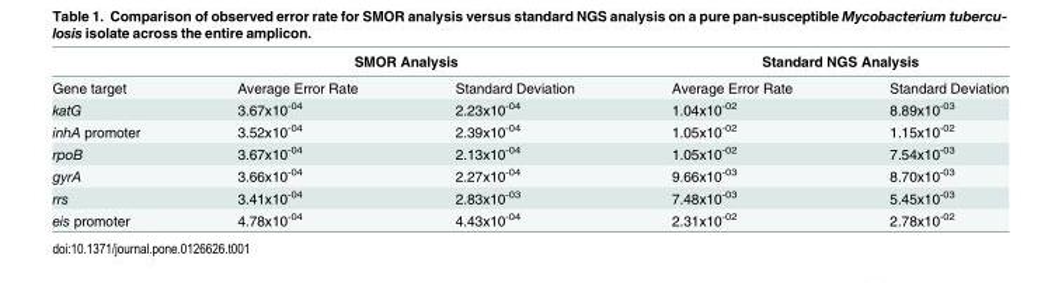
<table><thead><tr><td rowspan="2">Gene target</td><td colspan="2">SMOR Analysis</td><td colspan="2">Standard NGS Analysis</td></tr><tr><td>Average Error Rate</td><td>Standard Deviation</td><td>Average Error Rate</td><td>Standard Deviation</td></tr></thead><tbody><tr><td>katG</td><td>3.67x10<sup>-04</sup></td><td>2.23x10<sup>-04</sup></td><td>1.04x10<sup>-02</sup></td><td>8.89x10<sup>-03</sup></td></tr><tr><td>inhA promoter</td><td>3.52x10<sup>-04</sup></td><td>2.39x10<sup>-04</sup></td><td>1.05x10<sup>-02</sup></td><td>1.15x10<sup>-02</sup></td></tr><tr><td>rpoB</td><td>3.67x10<sup>-04</sup></td><td>2.13x10<sup>-04</sup></td><td>1.05x10<sup>-02</sup></td><td>7.54x10<sup>-03</sup></td></tr><tr><td>gyrA</td><td>3.66x10<sup>-04</sup></td><td>2.27x10<sup>-04</sup></td><td>9.66x10<sup>-03</sup></td><td>8.70x10<sup>-03</sup></td></tr><tr><td>rrs</td><td>3.41x10<sup>-04</sup></td><td>2.83x10<sup>-03</sup></td><td>7.48x10<sup>-03</sup></td><td>5.45x10<sup>-03</sup></td></tr><tr><td>eis promoter</td><td>4.78x10<sup>-04</sup></td><td>4.43x10<sup>-04</sup></td><td>2.31x10<sup>-02</sup></td><td>2.78x10<sup>-02</sup></td></tr></tbody></table>